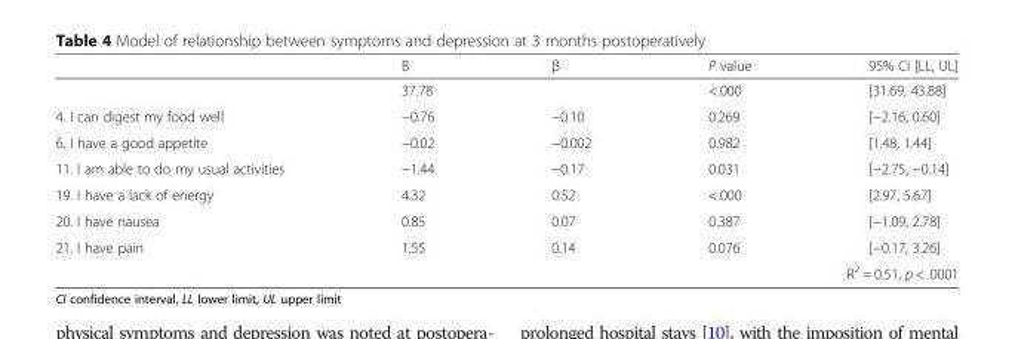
<table><thead><tr><td></td><td>B</td><td>β</td><td>P value</td><td>95% CI [LL, UL]</td></tr></thead><tbody><tr><td></td><td>37.78</td><td></td><td>&lt;.000</td><td>[31.69, 43.88]</td></tr><tr><td>4. I can digest my food well</td><td>−0.76</td><td>−0.10</td><td>0.269</td><td>[−2.16, 0.60]</td></tr><tr><td>6. I have a good appetite</td><td>−0.02</td><td>−0.002</td><td>0.982</td><td>[1.48, 1.44]</td></tr><tr><td>11. I am able to do my usual activities</td><td>−1.44</td><td>−0.17</td><td>0.031</td><td>[−2.75, −0.14]</td></tr><tr><td>19. I have a lack of energy</td><td>4.32</td><td>0.52</td><td>&lt;.000</td><td>[2.97, 5.67]</td></tr><tr><td>20. I have nausea</td><td>0.85</td><td>0.07</td><td>0.387</td><td>[−1.09, 2.78]</td></tr><tr><td>21. I have pain</td><td>1.55</td><td>0.14</td><td>0.076</td><td>[−0.17, 3.26]</td></tr><tr><td colspan="5">R<sup>2</sup> = 0.51, p &lt; .0001</td></tr></tbody></table>